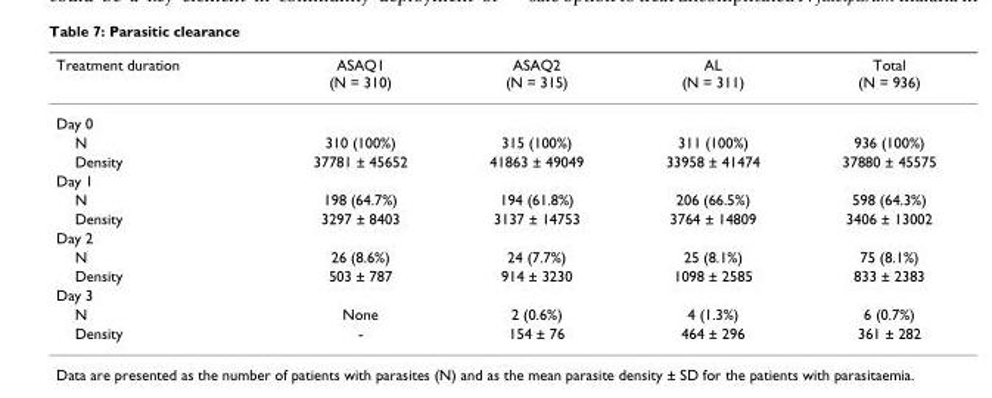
<table><thead><tr><td>Treatment duration</td><td>ASAQ1 (N = 310)</td><td>ASAQ2 (N = 315)</td><td>AL (N = 311)</td><td>Total (N = 936)</td></tr></thead><tbody><tr><td colspan="5">Day 0</td></tr><tr><td>N</td><td>310 (100%)</td><td>315 (100%)</td><td>311 (100%)</td><td>936 (100%)</td></tr><tr><td>Density</td><td>37781 ± 45652</td><td>41863 ± 49049</td><td>33958 ± 41474</td><td>37880 ± 45575</td></tr><tr><td colspan="5">Day 1</td></tr><tr><td>N</td><td>198 (64.7%)</td><td>194 (61.8%)</td><td>206 (66.5%)</td><td>598 (64.3%)</td></tr><tr><td>Density</td><td>3297 ± 8403</td><td>3137 ± 14753</td><td>3764 ± 14809</td><td>3406 ± 13002</td></tr><tr><td colspan="5">Day 2</td></tr><tr><td>N</td><td>26 (8.6%)</td><td>24 (7.7%)</td><td>25 (8.1%)</td><td>75 (8.1%)</td></tr><tr><td>Density</td><td>503 ± 787</td><td>914 ± 3230</td><td>1098 ± 2585</td><td>833 ± 2383</td></tr><tr><td colspan="5">Day 3</td></tr><tr><td>N</td><td>None</td><td>2 (0.6%)</td><td>4 (1.3%)</td><td>6 (0.7%)</td></tr><tr><td>Density</td><td>-</td><td>154 ± 76</td><td>464 ± 296</td><td>361 ± 282</td></tr></tbody></table>